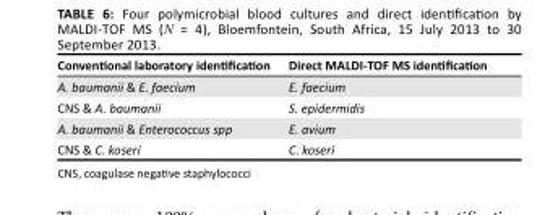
<table><thead><tr><td>Conventional laboratory identification</td><td>Direct MALDI-TOF MS identification</td></tr></thead><tbody><tr><td>A. baumanii &amp; E. faecium</td><td>E. faecium</td></tr><tr><td>CNS &amp; A. baumanii</td><td>S. epidermidis</td></tr><tr><td>A. baumanii &amp; Enterococcus spp</td><td>E. avium</td></tr><tr><td>CNS &amp; C. koseri</td><td>C. koseri</td></tr></tbody></table>